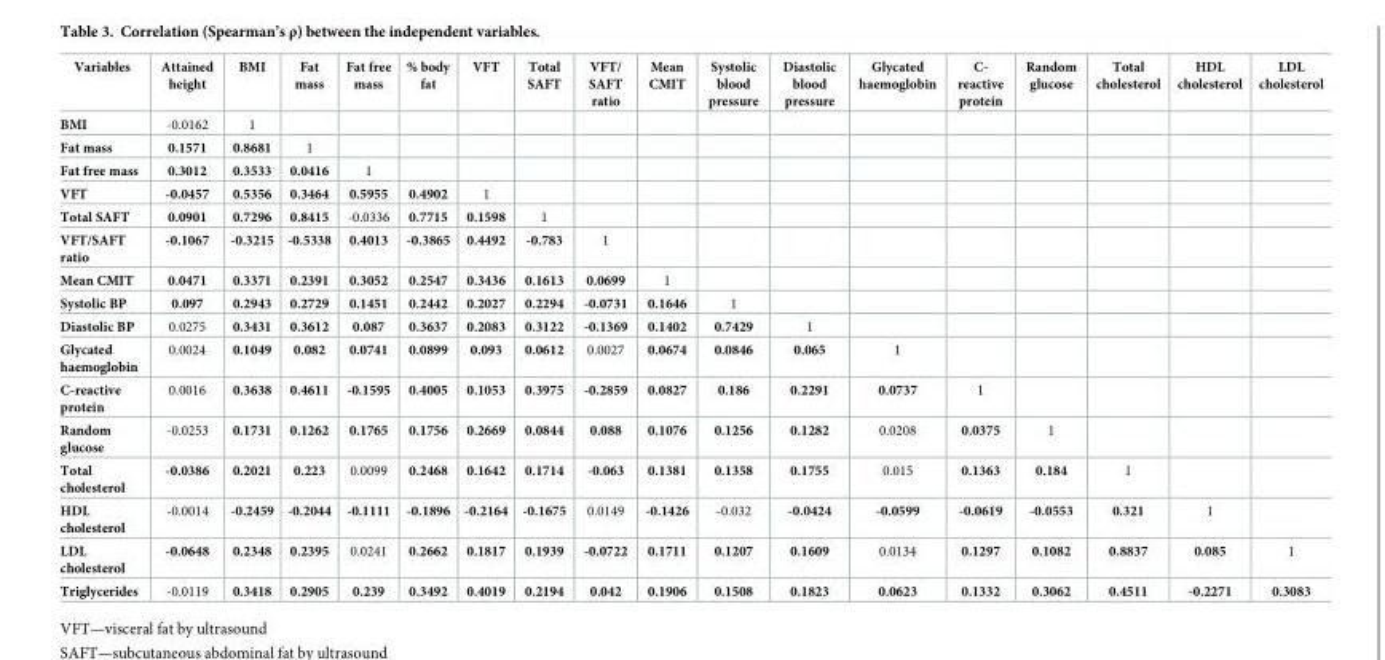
<table><thead><tr><td>Variables</td><td>Attained height</td><td>BMI</td><td>Fat mass</td><td>Fat free mass</td><td>% body fat</td><td>VFT</td><td>Total SAFT</td><td>VFT/ SAFT ratio</td><td>Mean CMIT</td><td>Systolic blood pressure</td><td>Diastolic blood pressure</td><td>Glycated haemoglobin</td><td>C- reactive protein</td><td>Random glucose</td><td>Total cholesterol</td><td>HDL cholesterol</td><td>LDL cholesterol</td></tr></thead><tbody><tr><td>BMI</td><td>-0.0162</td><td>1</td><td></td><td></td><td></td><td></td><td></td><td></td><td></td><td></td><td></td><td></td><td></td><td></td><td></td><td></td><td></td></tr><tr><td>Fat mass</td><td>0.1571</td><td>0.8681</td><td>1</td><td></td><td></td><td></td><td></td><td></td><td></td><td></td><td></td><td></td><td></td><td></td><td></td><td></td><td></td></tr><tr><td>Fat free mass</td><td>0.3012</td><td>0.3533</td><td>0.0416</td><td>1</td><td></td><td></td><td></td><td></td><td></td><td></td><td></td><td></td><td></td><td></td><td></td><td></td><td></td></tr><tr><td>VFT</td><td>-0.0457</td><td>0.5356</td><td>0.3464</td><td>0.5955</td><td>0.4902</td><td>1</td><td></td><td></td><td></td><td></td><td></td><td></td><td></td><td></td><td></td><td></td><td></td></tr><tr><td>Total SAFT</td><td>0.0901</td><td>0.7296</td><td>0.8415</td><td>-0.0336</td><td>0.7715</td><td>0.1598</td><td>1</td><td></td><td></td><td></td><td></td><td></td><td></td><td></td><td></td><td></td><td></td></tr><tr><td>VFT/SAFT ratio</td><td>-0.1067</td><td>-0.3215</td><td>-0.5338</td><td>0.4013</td><td>-0.3865</td><td>0.4492</td><td>-0.783</td><td>1</td><td></td><td></td><td></td><td></td><td></td><td></td><td></td><td></td><td></td></tr><tr><td>Mean CMIT</td><td>0.0471</td><td>0.3371</td><td>0.2391</td><td>0.3052</td><td>0.2547</td><td>0.3436</td><td>0.1613</td><td>0.0699</td><td>1</td><td></td><td></td><td></td><td></td><td></td><td></td><td></td><td></td></tr><tr><td>Systolic BP</td><td>0.097</td><td>0.2943</td><td>0.2729</td><td>0.1451</td><td>0.2442</td><td>0.2027</td><td>0.2294</td><td>-0.0731</td><td>0.1646</td><td>1</td><td></td><td></td><td></td><td></td><td></td><td></td><td></td></tr><tr><td>Diastolic BP</td><td>0.0275</td><td>0.3431</td><td>0.3612</td><td>0.087</td><td>0.3637</td><td>0.2083</td><td>0.3122</td><td>-0.1369</td><td>0.1402</td><td>0.7429</td><td>1</td><td></td><td></td><td></td><td></td><td></td><td></td></tr><tr><td>Glycated haemoglobin</td><td>0.0024</td><td>0.1049</td><td>0.082</td><td>0.0741</td><td>0.0899</td><td>0.093</td><td>0.0612</td><td>0.0027</td><td>0.0674</td><td>0.0846</td><td>0.065</td><td>1</td><td></td><td></td><td></td><td></td><td></td></tr><tr><td>C-reactive protein</td><td>0.0016</td><td>0.3638</td><td>0.4611</td><td>-0.1595</td><td>0.4005</td><td>0.1053</td><td>0.3975</td><td>-0.2859</td><td>0.0827</td><td>0.186</td><td>0.2291</td><td>0.0737</td><td>1</td><td></td><td></td><td></td><td></td></tr><tr><td>Random glucose</td><td>-0.0253</td><td>0.1731</td><td>0.1262</td><td>0.1765</td><td>0.1756</td><td>0.2669</td><td>0.0844</td><td>0.088</td><td>0.1076</td><td>0.1256</td><td>0.1282</td><td>0.0208</td><td>0.0375</td><td>1</td><td></td><td></td><td></td></tr><tr><td>Total cholesterol</td><td>-0.0386</td><td>0.2021</td><td>0.223</td><td>0.0099</td><td>0.2468</td><td>0.1642</td><td>0.1714</td><td>-0.063</td><td>0.1381</td><td>0.1358</td><td>0.1755</td><td>0.015</td><td>0.1363</td><td>0.184</td><td>1</td><td></td><td></td></tr><tr><td>HDL cholesterol</td><td>-0.0014</td><td>-0.2459</td><td>-0.2044</td><td>-0.1111</td><td>-0.1896</td><td>-0.2164</td><td>-0.1675</td><td>0.0149</td><td>-0.1426</td><td>-0.032</td><td>-0.0424</td><td>-0.0599</td><td>-0.0619</td><td>-0.0553</td><td>0.321</td><td>1</td><td></td></tr><tr><td>LDL cholesterol</td><td>-0.0648</td><td>0.2348</td><td>0.2395</td><td>0.0241</td><td>0.2662</td><td>0.1817</td><td>0.1939</td><td>-0.0722</td><td>0.1711</td><td>0.1207</td><td>0.1609</td><td>0.0134</td><td>0.1297</td><td>0.1082</td><td>0.8837</td><td>0.085</td><td>1</td></tr><tr><td>Triglycerides</td><td>-0.0119</td><td>0.3418</td><td>0.2905</td><td>0.239</td><td>0.3492</td><td>0.4019</td><td>0.2194</td><td>0.042</td><td>0.1906</td><td>0.1508</td><td>0.1823</td><td>0.0623</td><td>0.1332</td><td>0.3062</td><td>0.4511</td><td>-0.2271</td><td>0.3083</td></tr></tbody></table>